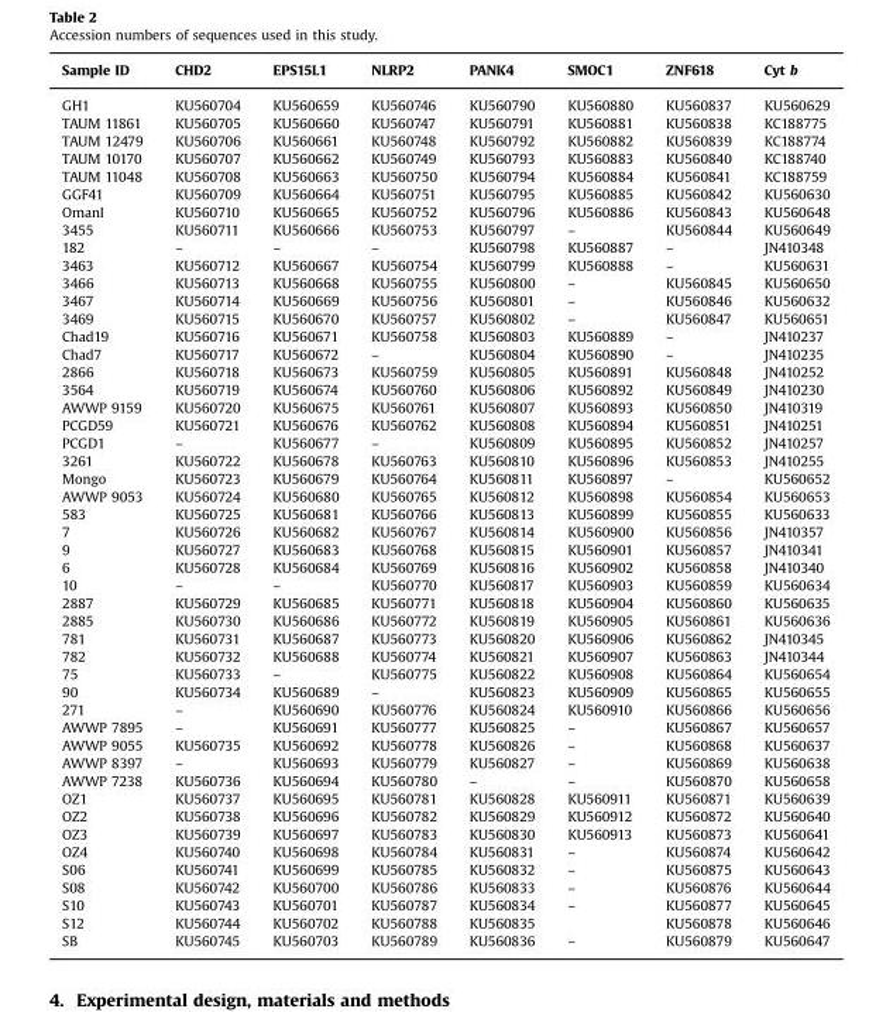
<table><thead><tr><td>Sample ID</td><td>CHD2</td><td>EPS15L1</td><td>NLRP2</td><td>PANK4</td><td>SMOC1</td><td>ZNF618</td><td>Cyt b</td></tr></thead><tbody><tr><td>GH1</td><td>KU560704</td><td>KU560659</td><td>KU560746</td><td>KU560790</td><td>KU560880</td><td>KU560837</td><td>KU560629</td></tr><tr><td>TAUM 11861</td><td>KU560705</td><td>KU560660</td><td>KU560747</td><td>KU560791</td><td>KU560881</td><td>KU560838</td><td>KC188775</td></tr><tr><td>TAUM 12479</td><td>KU560706</td><td>KU560661</td><td>KU560748</td><td>KU560792</td><td>KU560882</td><td>KU560839</td><td>KC188774</td></tr><tr><td>TAUM 10170</td><td>KU560707</td><td>KU560662</td><td>KU560749</td><td>KU560793</td><td>KU560883</td><td>KU560840</td><td>KC188740</td></tr><tr><td>TAUM 11048</td><td>KU560708</td><td>KU560663</td><td>KU560750</td><td>KU560794</td><td>KU560884</td><td>KU560841</td><td>KC188759</td></tr><tr><td>GGF41</td><td>KU560709</td><td>KU560664</td><td>KU560751</td><td>KU560795</td><td>KU560885</td><td>KU560842</td><td>KU560630</td></tr><tr><td>OmanI</td><td>KU560710</td><td>KU560665</td><td>KU560752</td><td>KU560796</td><td>KU560886</td><td>KU560843</td><td>KU560648</td></tr><tr><td>3455</td><td>KU560711</td><td>KU560666</td><td>KU560753</td><td>KU560797</td><td>–</td><td>KU560844</td><td>KU560649</td></tr><tr><td>182</td><td>–</td><td>–</td><td>–</td><td>KU560798</td><td>KU560887</td><td>–</td><td>JN410348</td></tr><tr><td>3463</td><td>KU560712</td><td>KU560667</td><td>KU560754</td><td>KU560799</td><td>KU560888</td><td>–</td><td>KU560631</td></tr><tr><td>3466</td><td>KU560713</td><td>KU560668</td><td>KU560755</td><td>KU560800</td><td>–</td><td>KU560845</td><td>KU560650</td></tr><tr><td>3467</td><td>KU560714</td><td>KU560669</td><td>KU560756</td><td>KU560801</td><td>–</td><td>KU560846</td><td>KU560632</td></tr><tr><td>3469</td><td>KU560715</td><td>KU560670</td><td>KU560757</td><td>KU560802</td><td>–</td><td>KU560847</td><td>KU560651</td></tr><tr><td>Chad19</td><td>KU560716</td><td>KU560671</td><td>KU560758</td><td>KU560803</td><td>KU560889</td><td>–</td><td>JN410237</td></tr><tr><td>Chad7</td><td>KU560717</td><td>KU560672</td><td>–</td><td>KU560804</td><td>KU560890</td><td>–</td><td>JN410235</td></tr><tr><td>2866</td><td>KU560718</td><td>KU560673</td><td>KU560759</td><td>KU560805</td><td>KU560891</td><td>KU560848</td><td>JN410252</td></tr><tr><td>3564</td><td>KU560719</td><td>KU560674</td><td>KU560760</td><td>KU560806</td><td>KU560892</td><td>KU560849</td><td>JN410230</td></tr><tr><td>AWWP 9159</td><td>KU560720</td><td>KU560675</td><td>KU560761</td><td>KU560807</td><td>KU560893</td><td>KU560850</td><td>JN410319</td></tr><tr><td>PCGD59</td><td>KU560721</td><td>KU560676</td><td>KU560762</td><td>KU560808</td><td>KU560894</td><td>KU560851</td><td>JN410251</td></tr><tr><td>PCGD1</td><td>–</td><td>KU560677</td><td>–</td><td>KU560809</td><td>KU560895</td><td>KU560852</td><td>JN410257</td></tr><tr><td>3261</td><td>KU560722</td><td>KU560678</td><td>KU560763</td><td>KU560810</td><td>KU560896</td><td>KU560853</td><td>JN410255</td></tr><tr><td>Mongo</td><td>KU560723</td><td>KU560679</td><td>KU560764</td><td>KU560811</td><td>KU560897</td><td>–</td><td>KU560652</td></tr><tr><td>AWWP 9053</td><td>KU560724</td><td>KU560680</td><td>KU560765</td><td>KU560812</td><td>KU560898</td><td>KU560854</td><td>KU560653</td></tr><tr><td>583</td><td>KU560725</td><td>KU560681</td><td>KU560766</td><td>KU560813</td><td>KU560899</td><td>KU560855</td><td>KU560633</td></tr><tr><td>7</td><td>KU560726</td><td>KU560682</td><td>KU560767</td><td>KU560814</td><td>KU560900</td><td>KU560856</td><td>JN410357</td></tr><tr><td>9</td><td>KU560727</td><td>KU560683</td><td>KU560768</td><td>KU560815</td><td>KU560901</td><td>KU560857</td><td>JN410341</td></tr><tr><td>6</td><td>KU560728</td><td>KU560684</td><td>KU560769</td><td>KU560816</td><td>KU560902</td><td>KU560858</td><td>JN410340</td></tr><tr><td>10</td><td>–</td><td>–</td><td>KU560770</td><td>KU560817</td><td>KU560903</td><td>KU560859</td><td>KU560634</td></tr><tr><td>2887</td><td>KU560729</td><td>KU560685</td><td>KU560771</td><td>KU560818</td><td>KU560904</td><td>KU560860</td><td>KU560635</td></tr><tr><td>2885</td><td>KU560730</td><td>KU560686</td><td>KU560772</td><td>KU560819</td><td>KU560905</td><td>KU560861</td><td>KU560636</td></tr><tr><td>781</td><td>KU560731</td><td>KU560687</td><td>KU560773</td><td>KU560820</td><td>KU560906</td><td>KU560862</td><td>JN410345</td></tr><tr><td>782</td><td>KU560732</td><td>KU560688</td><td>KU560774</td><td>KU560821</td><td>KU560907</td><td>KU560863</td><td>JN410344</td></tr><tr><td>75</td><td>KU560733</td><td>–</td><td>KU560775</td><td>KU560822</td><td>KU560908</td><td>KU560864</td><td>KU560654</td></tr><tr><td>90</td><td>KU560734</td><td>KU560689</td><td>–</td><td>KU560823</td><td>KU560909</td><td>KU560865</td><td>KU560655</td></tr><tr><td>271</td><td>–</td><td>KU560690</td><td>KU560776</td><td>KU560824</td><td>KU560910</td><td>KU560866</td><td>KU560656</td></tr><tr><td>AWWP 7895</td><td>–</td><td>KU560691</td><td>KU560777</td><td>KU560825</td><td>–</td><td>KU560867</td><td>KU560657</td></tr><tr><td>AWWP 9055</td><td>KU560735</td><td>KU560692</td><td>KU560778</td><td>KU560826</td><td>–</td><td>KU560868</td><td>KU560637</td></tr><tr><td>AWWP 8397</td><td>–</td><td>KU560693</td><td>KU560779</td><td>KU560827</td><td>–</td><td>KU560869</td><td>KU560638</td></tr><tr><td>AWWP 7238</td><td>KU560736</td><td>KU560694</td><td>KU560780</td><td>–</td><td>–</td><td>KU560870</td><td>KU560658</td></tr><tr><td>OZ1</td><td>KU560737</td><td>KU560695</td><td>KU560781</td><td>KU560828</td><td>KU560911</td><td>KU560871</td><td>KU560639</td></tr><tr><td>OZ2</td><td>KU560738</td><td>KU560696</td><td>KU560782</td><td>KU560829</td><td>KU560912</td><td>KU560872</td><td>KU560640</td></tr><tr><td>OZ3</td><td>KU560739</td><td>KU560697</td><td>KU560783</td><td>KU560830</td><td>KU560913</td><td>KU560873</td><td>KU560641</td></tr><tr><td>OZ4</td><td>KU560740</td><td>KU560698</td><td>KU560784</td><td>KU560831</td><td>–</td><td>KU560874</td><td>KU560642</td></tr><tr><td>S06</td><td>KU560741</td><td>KU560699</td><td>KU560785</td><td>KU560832</td><td>–</td><td>KU560875</td><td>KU560643</td></tr><tr><td>S08</td><td>KU560742</td><td>KU560700</td><td>KU560786</td><td>KU560833</td><td>–</td><td>KU560876</td><td>KU560644</td></tr><tr><td>S10</td><td>KU560743</td><td>KU560701</td><td>KU560787</td><td>KU560834</td><td>–</td><td>KU560877</td><td>KU560645</td></tr><tr><td>S12</td><td>KU560744</td><td>KU560702</td><td>KU560788</td><td>KU560835</td><td></td><td>KU560878</td><td>KU560646</td></tr><tr><td>SB</td><td>KU560745</td><td>KU560703</td><td>KU560789</td><td>KU560836</td><td>–</td><td>KU560879</td><td>KU560647</td></tr></tbody></table>